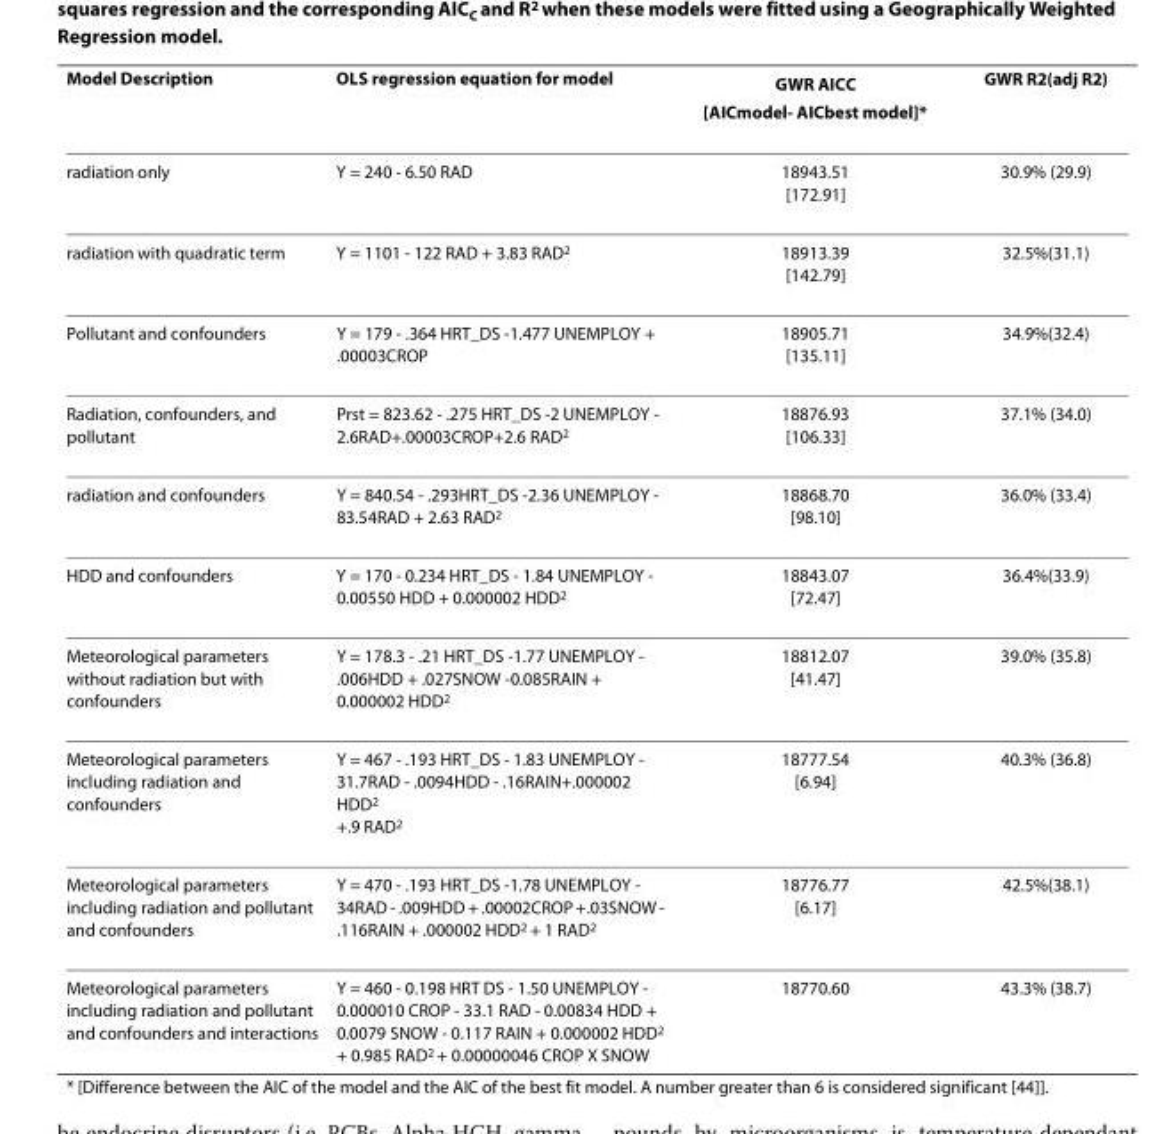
<table><thead><tr><td>Model Description</td><td>OLS regression equation for model</td><td>GWR AIC<sub>C</sub> [AIC<sub>model</sub>- AIC<sub>best model</sub>]*</td><td>GWR R<sup>2</sup>(adj R<sup>2</sup>)</td></tr></thead><tbody><tr><td>radiation only</td><td>Y = 240 - 6.50 RAD</td><td>18943.51 [172.91]</td><td>30.9% (29.9)</td></tr><tr><td>radiation with quadratic term</td><td>Y = 1101 - 122 RAD + 3.83 RAD<sup>2</sup></td><td>18913.39 [142.79]</td><td>32.5%(31.1)</td></tr><tr><td>Pollutant and confounders</td><td>Y = 179 - .364 HRT_DS -1.477 UNEMPLOY + .00003CROP</td><td>18905.71 [135.11]</td><td>34.9%(32.4)</td></tr><tr><td>Radiation, confounders, and pollutant</td><td>Prst = 823.62 - .275 HRT_DS -2 UNEMPLOY - 2.6RAD+.00003CROP+2.6 RAD<sup>2</sup></td><td>18876.93 [106.33]</td><td>37.1% (34.0)</td></tr><tr><td>radiation and confounders</td><td>Y = 840.54 - .293HRT_DS -2.36 UNEMPLOY - 83.54RAD + 2.63 RAD<sup>2</sup></td><td>18868.70 [98.10]</td><td>36.0% (33.4)</td></tr><tr><td>HDD and confounders</td><td>Y = 170 - 0.234 HRT_DS - 1.84 UNEMPLOY - 0.00550 HDD + 0.000002 HDD<sup>2</sup></td><td>18843.07 [72.47]</td><td>36.4%(33.9)</td></tr><tr><td>Meteorological parameters without radiation but with confounders</td><td>Y = 178.3 - .21 HRT_DS -1.77 UNEMPLOY - .006HDD + .027SNOW -0.085RAIN + 0.000002 HDD<sup>2</sup></td><td>18812.07 [41.47]</td><td>39.0% (35.8)</td></tr><tr><td>Meteorological parameters including radiation and confounders</td><td>Y = 467 - .193 HRT_DS - 1.83 UNEMPLOY - 31.7RAD - .0094HDD - .16RAIN+.000002 HDD<sup>2</sup> +.9 RAD<sup>2</sup></td><td>18777.54 [6.94]</td><td>40.3% (36.8)</td></tr><tr><td>Meteorological parameters including radiation and pollutant and confounders</td><td>Y = 470 - .193 HRT_DS -1.78 UNEMPLOY - 34RAD - .009HDD + .00002CROP +.03SNOW - .116RAIN + .000002 HDD<sup>2</sup> + 1 RAD<sup>2</sup></td><td>18776.77 [6.17]</td><td>42.5%(38.1)</td></tr><tr><td>Meteorological parameters including radiation and pollutant and confounders and interactions</td><td>Y = 460 - 0.198 HRT DS - 1.50 UNEMPLOY - 0.000010 CROP - 33.1 RAD - 0.00834 HDD + 0.0079 SNOW - 0.117 RAIN + 0.000002 HDD<sup>2</sup> + 0.985 RAD<sup>2</sup> + 0.00000046 CROP X SNOW</td><td>18770.60</td><td>43.3% (38.7)</td></tr></tbody></table>